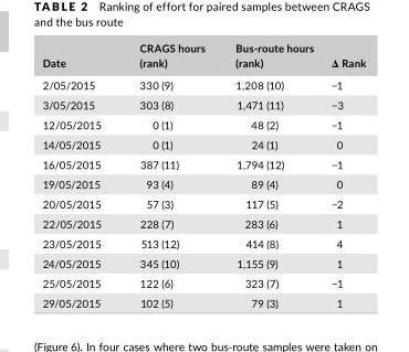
<table><thead><tr><td>Date</td><td>CRAGS hours (rank)</td><td>Bus- route hours (rank)</td><td>Δ Rank</td></tr></thead><tbody><tr><td>2/05/2015</td><td>330 (9)</td><td>1,208 (10)</td><td>−1</td></tr><tr><td>3/05/2015</td><td>303 (8)</td><td>1,471 (11)</td><td>−3</td></tr><tr><td>12/05/2015</td><td>0 (1)</td><td>48 (2)</td><td>−1</td></tr><tr><td>14/05/2015</td><td>0 (1)</td><td>24 (1)</td><td>0</td></tr><tr><td>16/05/2015</td><td>387 (11)</td><td>1,794 (12)</td><td>−1</td></tr><tr><td>19/05/2015</td><td>93 (4)</td><td>89 (4)</td><td>0</td></tr><tr><td>20/05/2015</td><td>57 (3)</td><td>117 (5)</td><td>−2</td></tr><tr><td>22/05/2015</td><td>228 (7)</td><td>283 (6)</td><td>1</td></tr><tr><td>23/05/2015</td><td>513 (12)</td><td>414 (8)</td><td>4</td></tr><tr><td>24/05/2015</td><td>345 (10)</td><td>1,155 (9)</td><td>1</td></tr><tr><td>25/05/2015</td><td>122 (6)</td><td>323 (7)</td><td>−1</td></tr><tr><td>29/05/2015</td><td>102 (5)</td><td>79 (3)</td><td>1</td></tr></tbody></table>